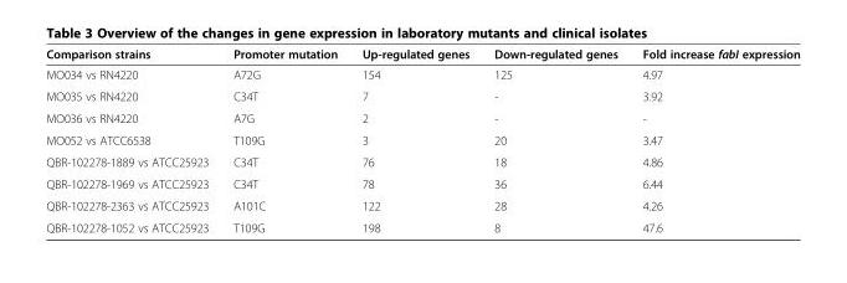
<table><thead><tr><td>Comparison strains</td><td>Promoter mutation</td><td>Up-regulated genes</td><td>Down-regulated genes</td><td>Fold increase fabI expression</td></tr></thead><tbody><tr><td>MO034 vs RN4220</td><td>A72G</td><td>154</td><td>125</td><td>4.97</td></tr><tr><td>MO035 vs RN4220</td><td>C34T</td><td>7</td><td>-</td><td>3.92</td></tr><tr><td>MO036 vs RN4220</td><td>A7G</td><td>2</td><td>-</td><td>-</td></tr><tr><td>MO052 vs ATCC6538</td><td>T109G</td><td>3</td><td>20</td><td>3.47</td></tr><tr><td>QBR-102278-1889 vs ATCC25923</td><td>C34T</td><td>76</td><td>18</td><td>4.86</td></tr><tr><td>QBR-102278-1969 vs ATCC25923</td><td>C34T</td><td>78</td><td>36</td><td>6.44</td></tr><tr><td>QBR-102278-2363 vs ATCC25923</td><td>A101C</td><td>122</td><td>28</td><td>4.26</td></tr><tr><td>QBR-102278-1052 vs ATCC25923</td><td>T109G</td><td>198</td><td>8</td><td>47.6</td></tr></tbody></table>